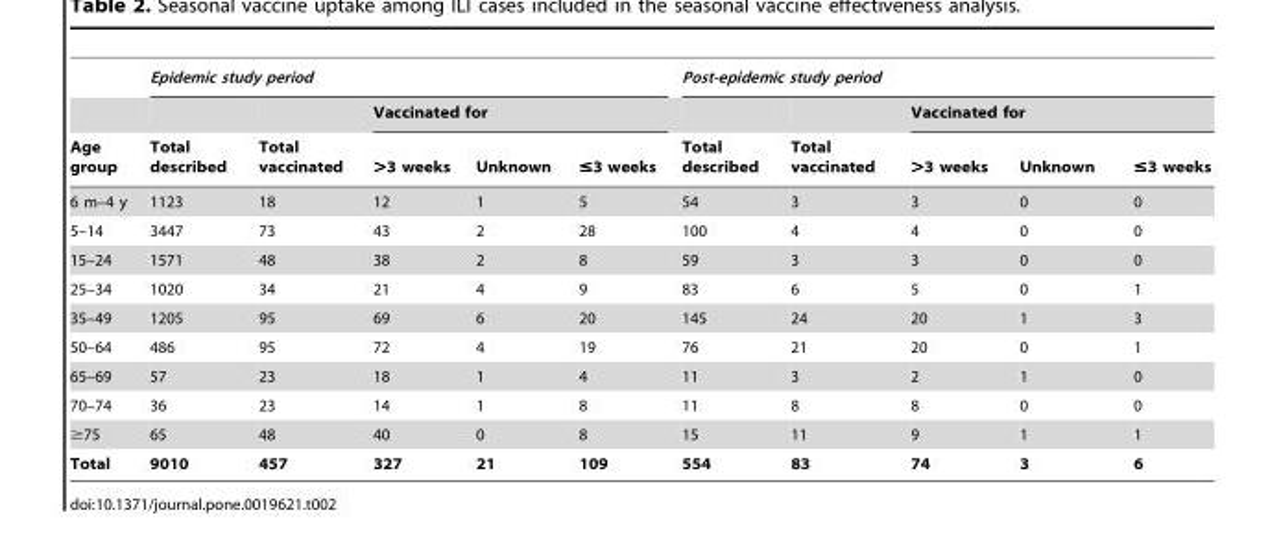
<table><thead><tr><td rowspan="3">Age group</td><td colspan="5">Epidemic study period</td><td colspan="5">Post-epidemic study period</td></tr><tr><td rowspan="2">Total described</td><td rowspan="2">Total vaccinated</td><td colspan="3">Vaccinated for</td><td rowspan="2">Total described</td><td rowspan="2">Total vaccinated</td><td colspan="3">Vaccinated for</td></tr><tr><td>&gt;3 weeks</td><td>Unknown</td><td>≤3 weeks</td><td>&gt;3 weeks</td><td>Unknown</td><td>≤3 weeks</td></tr></thead><tbody><tr><td>6 m–4 y</td><td>1123</td><td>18</td><td>12</td><td>1</td><td>5</td><td>54</td><td>3</td><td>3</td><td>0</td><td>0</td></tr><tr><td>5–14</td><td>3447</td><td>73</td><td>43</td><td>2</td><td>28</td><td>100</td><td>4</td><td>4</td><td>0</td><td>0</td></tr><tr><td>15–24</td><td>1571</td><td>48</td><td>38</td><td>2</td><td>8</td><td>59</td><td>3</td><td>3</td><td>0</td><td>0</td></tr><tr><td>25–34</td><td>1020</td><td>34</td><td>21</td><td>4</td><td>9</td><td>83</td><td>6</td><td>5</td><td>0</td><td>1</td></tr><tr><td>35–49</td><td>1205</td><td>95</td><td>69</td><td>6</td><td>20</td><td>145</td><td>24</td><td>20</td><td>1</td><td>3</td></tr><tr><td>50–64</td><td>486</td><td>95</td><td>72</td><td>4</td><td>19</td><td>76</td><td>21</td><td>20</td><td>0</td><td>1</td></tr><tr><td>65–69</td><td>57</td><td>23</td><td>18</td><td>1</td><td>4</td><td>11</td><td>3</td><td>2</td><td>1</td><td>0</td></tr><tr><td>70–74</td><td>36</td><td>23</td><td>14</td><td>1</td><td>8</td><td>11</td><td>8</td><td>8</td><td>0</td><td>0</td></tr><tr><td>≥75</td><td>65</td><td>48</td><td>40</td><td>0</td><td>8</td><td>15</td><td>11</td><td>9</td><td>1</td><td>1</td></tr><tr><td>Total</td><td>9010</td><td>457</td><td>327</td><td>21</td><td>109</td><td>554</td><td>83</td><td>74</td><td>3</td><td>6</td></tr></tbody></table>